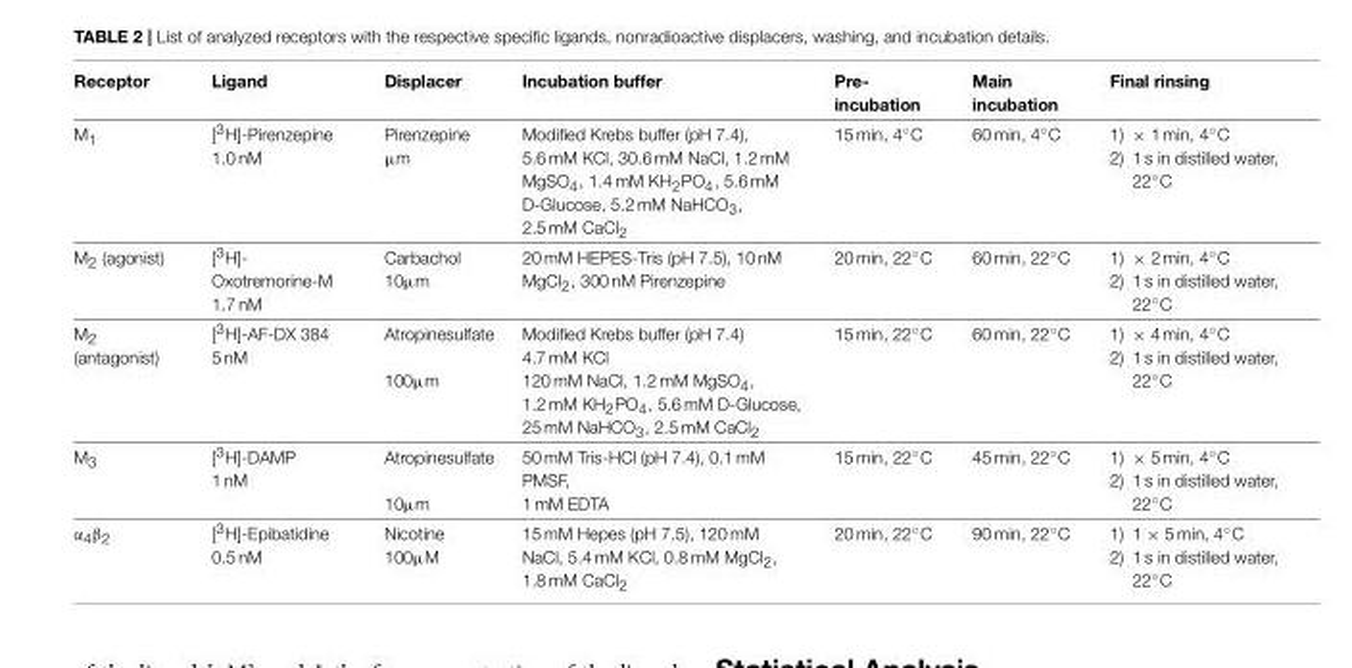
<table><thead><tr><td>Receptor</td><td>Ligand</td><td>Displacer</td><td>Incubation buffer</td><td>Pre- incubation</td><td>Main incubation</td><td>Final rinsing</td></tr></thead><tbody><tr><td>M<sub>1</sub></td><td>[<sup>3</sup>H]-Pirenzepine 1.0 nM</td><td>Pirenzepine µm</td><td>Modified Krebs buffer (pH 7.4), 5.6 mM KCl, 30.6 mM NaCl, 1.2 mM MgSO<sub>4</sub>, 1.4 mM KH<sub>2</sub>PO<sub>4</sub>, 5.6 mM D-Glucose, 5.2 mM NaHCO<sub>3</sub>, 2.5 mM CaCl<sub>2</sub></td><td>15 min, 4◦C</td><td>60 min, 4◦C</td><td>1) × 1 min, 4◦C 2) 1 s in distilled water, 22◦C</td></tr><tr><td>M<sub>2</sub> (agonist)</td><td>[<sup>3</sup>H]- Oxotremorine-M 1.7 nM</td><td>Carbachol 10µm</td><td>20 mM HEPES-Tris (pH 7.5), 10 nM MgCl<sub>2</sub>, 300 nM Pirenzepine</td><td>20 min, 22◦C</td><td>60 min, 22◦C</td><td>1) × 2 min, 4◦C 2) 1 s in distilled water, 22◦C</td></tr><tr><td>M<sub>2</sub> (antagonist)</td><td>[<sup>3</sup>H]-AF-DX 384 5 nM</td><td>Atropinesulfate 100µm</td><td>Modified Krebs buffer (pH 7.4) 4.7 mM KCl 120 mM NaCl, 1.2 mM MgSO<sub>4</sub>, 1.2 mM KH<sub>2</sub>PO<sub>4</sub>, 5.6 mM D-Glucose, 25 mM NaHCO<sub>3</sub>, 2.5 mM CaCl<sub>2</sub></td><td>15 min, 22◦C</td><td>60 min, 22◦C</td><td>1) × 4 min, 4◦C 2) 1 s in distilled water, 22◦C</td></tr><tr><td>M<sub>3</sub></td><td>[<sup>3</sup>H]-DAMP 1 nM</td><td>Atropinesulfate 10µm</td><td>50 mM Tris-HCl (pH 7.4), 0.1 mM PMSF, 1 mM EDTA</td><td>15 min, 22◦C</td><td>45 min, 22◦C</td><td>1) × 5 min, 4◦C 2) 1 s in distilled water, 22◦C</td></tr><tr><td>α<sub>4</sub>β<sub>2</sub></td><td>[<sup>3</sup>H]-Epibatidine 0.5 nM</td><td>Nicotine 100µM</td><td>15 mM Hepes (pH 7.5), 120 mM NaCl, 5.4 mM KCl, 0.8 mM MgCl<sub>2</sub>, 1.8 mM CaCl<sub>2</sub></td><td>20 min, 22◦C</td><td>90 min, 22◦C</td><td>1) 1 × 5 min, 4◦C 2) 1 s in distilled water, 22◦C</td></tr></tbody></table>